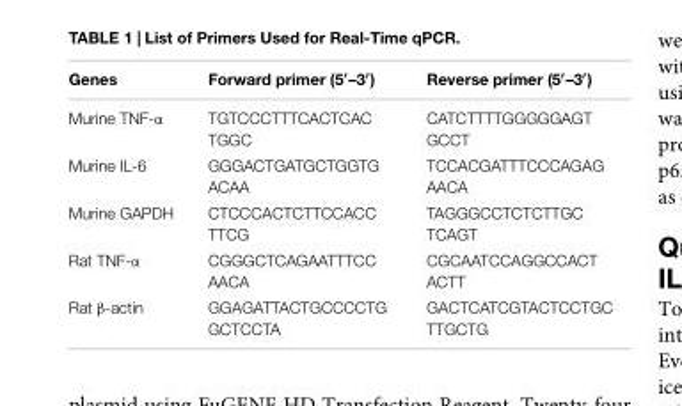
<table><thead><tr><td>Genes</td><td>Forward primer (5′–3′)</td><td>Reverse primer (5′–3′)</td></tr></thead><tbody><tr><td>Murine TNF-α</td><td>TGTCCCTTTCACTCAC TGGC</td><td>CATCTTTTGGGGGAGT GCCT</td></tr><tr><td>Murine IL-6</td><td>GGGACTGATGCTGGTG ACAA</td><td>TCCACGATTTCCCAGAG AACA</td></tr><tr><td>Murine GAPDH</td><td>CTCCCACTCTTCCACC TTCG</td><td>TAGGGCCTCTCTTGC TCAGT</td></tr><tr><td>Rat TNF-α</td><td>CGGGCTCAGAATTTCC AACA</td><td>CGCAATCCAGGCCACT ACTT</td></tr><tr><td>Rat β-actin</td><td>GGAGATTACTGCCCCTG GCTCCTA</td><td>GACTCATCGTACTCCTGC TTGCTG</td></tr></tbody></table>